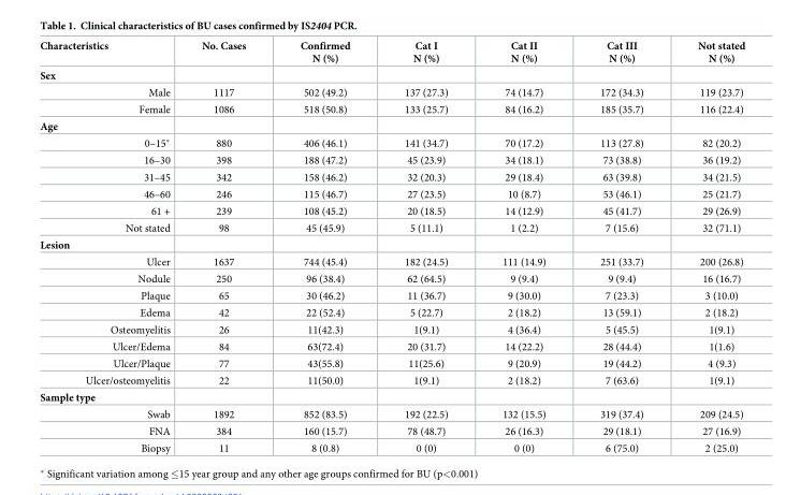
<table><thead><tr><td>Characteristics</td><td>No. Cases</td><td>Confirmed N (%)</td><td>Cat I N (%)</td><td>Cat II N (%)</td><td>Cat III N (%)</td><td>Not stated N (%)</td></tr></thead><tbody><tr><td colspan="7">Sex</td></tr><tr><td>Male</td><td>1117</td><td>502 (49.2)</td><td>137 (27.3)</td><td>74 (14.7)</td><td>172 (34.3)</td><td>119 (23.7)</td></tr><tr><td>Female</td><td>1086</td><td>518 (50.8)</td><td>133 (25.7)</td><td>84 (16.2)</td><td>185 (35.7)</td><td>116 (22.4)</td></tr><tr><td colspan="7">Age</td></tr><tr><td>0–15*</td><td>880</td><td>406 (46.1)</td><td>141 (34.7)</td><td>70 (17.2)</td><td>113 (27.8)</td><td>82 (20.2)</td></tr><tr><td>16–30</td><td>398</td><td>188 (47.2)</td><td>45 (23.9)</td><td>34 (18.1)</td><td>73 (38.8)</td><td>36 (19.2)</td></tr><tr><td>31–45</td><td>342</td><td>158 (46.2)</td><td>32 (20.3)</td><td>29 (18.4)</td><td>63 (39.8)</td><td>34 (21.5)</td></tr><tr><td>46–60</td><td>246</td><td>115 (46.7)</td><td>27 (23.5)</td><td>10 (8.7)</td><td>53 (46.1)</td><td>25 (21.7)</td></tr><tr><td>61 +</td><td>239</td><td>108 (45.2)</td><td>20 (18.5)</td><td>14 (12.9)</td><td>45 (41.7)</td><td>29 (26.9)</td></tr><tr><td>Not stated</td><td>98</td><td>45 (45.9)</td><td>5 (11.1)</td><td>1 (2.2)</td><td>7 (15.6)</td><td>32 (71.1)</td></tr><tr><td colspan="7">Lesion</td></tr><tr><td>Ulcer</td><td>1637</td><td>744 (45.4)</td><td>182 (24.5)</td><td>111 (14.9)</td><td>251 (33.7)</td><td>200 (26.8)</td></tr><tr><td>Nodule</td><td>250</td><td>96 (38.4)</td><td>62 (64.5)</td><td>9 (9.4)</td><td>9 (9.4)</td><td>16 (16.7)</td></tr><tr><td>Plaque</td><td>65</td><td>30 (46.2)</td><td>11 (36.7)</td><td>9 (30.0)</td><td>7 (23.3)</td><td>3 (10.0)</td></tr><tr><td>Edema</td><td>42</td><td>22 (52.4)</td><td>5 (22.7)</td><td>2 (18.2)</td><td>13 (59.1)</td><td>2 (18.2)</td></tr><tr><td>Osteomyelitis</td><td>26</td><td>11(42.3)</td><td>1(9.1)</td><td>4 (36.4)</td><td>5 (45.5)</td><td>1(9.1)</td></tr><tr><td>Ulcer/Edema</td><td>84</td><td>63(72.4)</td><td>20 (31.7)</td><td>14 (22.2)</td><td>28 (44.4)</td><td>1(1.6)</td></tr><tr><td>Ulcer/Plaque</td><td>77</td><td>43(55.8)</td><td>11(25.6)</td><td>9 (20.9)</td><td>19 (44.2)</td><td>4 (9.3)</td></tr><tr><td>Ulcer/osteomyelitis</td><td>22</td><td>11(50.0)</td><td>1(9.1)</td><td>2 (18.2)</td><td>7 (63.6)</td><td>1(9.1)</td></tr><tr><td colspan="7">Sample type</td></tr><tr><td>Swab</td><td>1892</td><td>852 (83.5)</td><td>192 (22.5)</td><td>132 (15.5)</td><td>319 (37.4)</td><td>209 (24.5)</td></tr><tr><td>FNA</td><td>384</td><td>160 (15.7)</td><td>78 (48.7)</td><td>26 (16.3)</td><td>29 (18.1)</td><td>27 (16.9)</td></tr><tr><td>Biopsy</td><td>11</td><td>8 (0.8)</td><td>0 (0)</td><td>0 (0)</td><td>6 (75.0)</td><td>2 (25.0)</td></tr></tbody></table>